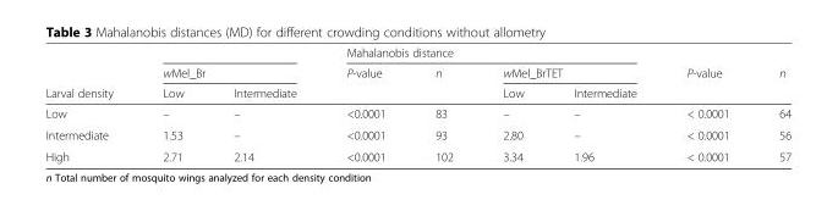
<table><thead><tr><td rowspan="3">Larval density</td><td></td><td></td><td colspan="4">Mahalanobis distance</td><td rowspan="3">P-value</td><td rowspan="3">n</td></tr><tr><td colspan="2">wMel_Br</td><td rowspan="2">P-value</td><td rowspan="2">n</td><td colspan="2">wMel_BrTET</td></tr><tr><td>Low</td><td>Intermediate</td><td>Low</td><td>Intermediate</td></tr></thead><tbody><tr><td>Low</td><td>–</td><td>–</td><td>&lt;0.0001</td><td>83</td><td>–</td><td>–</td><td>&lt; 0.0001</td><td>64</td></tr><tr><td>Intermediate</td><td>1.53</td><td>–</td><td>&lt;0.0001</td><td>93</td><td>2.80</td><td>–</td><td>&lt; 0.0001</td><td>56</td></tr><tr><td>High</td><td>2.71</td><td>2.14</td><td>&lt;0.0001</td><td>102</td><td>3.34</td><td>1.96</td><td>&lt; 0.0001</td><td>57</td></tr></tbody></table>